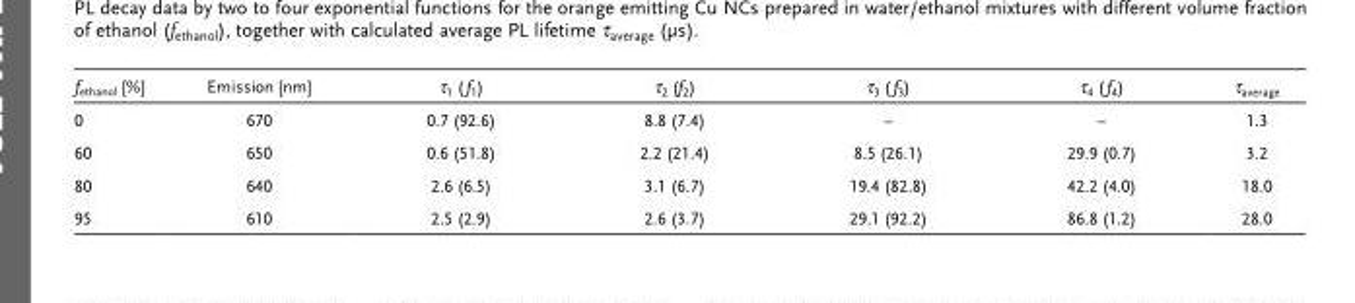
<table><thead><tr><td>f<sub>ethanol</sub> [%]</td><td>Emission [nm]</td><td>τ<sub>1</sub> ( f<sub>1</sub>)</td><td>τ<sub>2</sub> (f<sub>2</sub>)</td><td>τ<sub>3</sub> ( f<sub>3</sub>)</td><td>τ<sub>4</sub> ( f<sub>4</sub>)</td><td>τ<sub>average</sub></td></tr></thead><tbody><tr><td>0</td><td>670</td><td>0.7 (92.6)</td><td>8.8 (7.4)</td><td>–</td><td>–</td><td>1.3</td></tr><tr><td>60</td><td>650</td><td>0.6 (51.8)</td><td>2.2 (21.4)</td><td>8.5 (26.1)</td><td>29.9 (0.7)</td><td>3.2</td></tr><tr><td>80</td><td>640</td><td>2.6 (6.5)</td><td>3.1 (6.7)</td><td>19.4 (82.8)</td><td>42.2 (4.0)</td><td>18.0</td></tr><tr><td>95</td><td>610</td><td>2.5 (2.9)</td><td>2.6 (3.7)</td><td>29.1 (92.2)</td><td>86.8 (1.2)</td><td>28.0</td></tr></tbody></table>